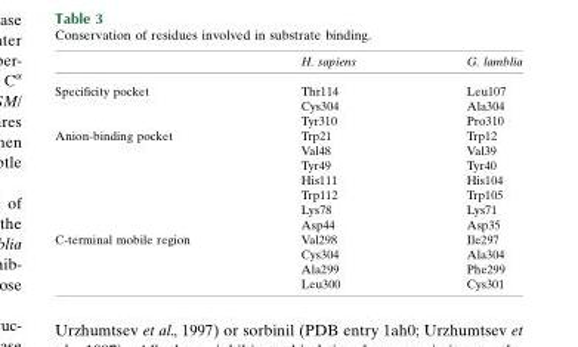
<table><thead><tr><td></td><td>H. sapiens</td><td>G. lamblia</td></tr></thead><tbody><tr><td rowspan="3">Specificity pocket</td><td>Thr114</td><td>Leu107</td></tr><tr><td>Cys304</td><td>Ala304</td></tr><tr><td>Tyr310</td><td>Pro310</td></tr><tr><td rowspan="7">Anion-binding pocket</td><td>Trp21</td><td>Trp12</td></tr><tr><td>Val48</td><td>Val39</td></tr><tr><td>Tyr49</td><td>Tyr40</td></tr><tr><td>His111</td><td>His104</td></tr><tr><td>Trp112</td><td>Trp105</td></tr><tr><td>Lys78</td><td>Lys71</td></tr><tr><td>Asp44</td><td>Asp35</td></tr><tr><td rowspan="4">C-terminal mobile region</td><td>Val298</td><td>Ile297</td></tr><tr><td>Cys304</td><td>Ala304</td></tr><tr><td>Ala299</td><td>Phe299</td></tr><tr><td>Leu300</td><td>Cys301</td></tr></tbody></table>